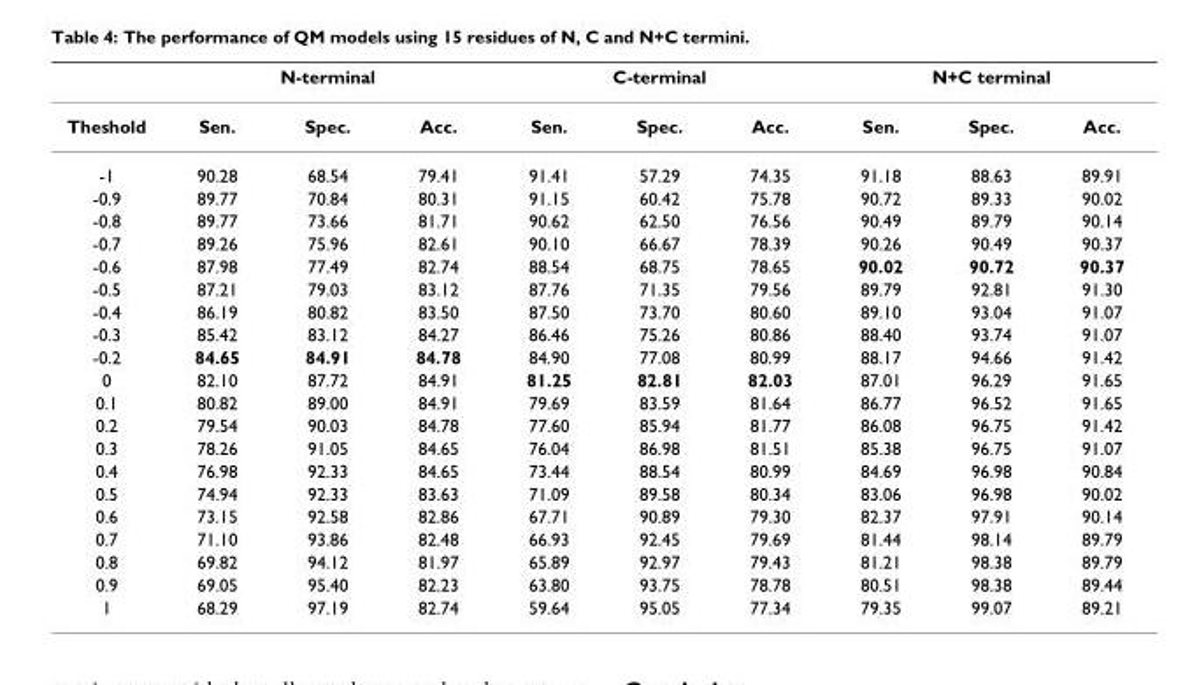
<table><thead><tr><td rowspan="2">Theshold</td><td colspan="3">N-terminal</td><td colspan="3">C-terminal</td><td colspan="3">N+C terminal</td></tr><tr><td>Sen.</td><td>Spec.</td><td>Acc.</td><td>Sen.</td><td>Spec.</td><td>Acc.</td><td>Sen.</td><td>Spec.</td><td>Acc.</td></tr></thead><tbody><tr><td>-1</td><td>90.28</td><td>68.54</td><td>79.41</td><td>91.41</td><td>57.29</td><td>74.35</td><td>91.18</td><td>88.63</td><td>89.91</td></tr><tr><td>-0.9</td><td>89.77</td><td>70.84</td><td>80.31</td><td>91.15</td><td>60.42</td><td>75.78</td><td>90.72</td><td>89.33</td><td>90.02</td></tr><tr><td>-0.8</td><td>89.77</td><td>73.66</td><td>81.71</td><td>90.62</td><td>62.50</td><td>76.56</td><td>90.49</td><td>89.79</td><td>90.14</td></tr><tr><td>-0.7</td><td>89.26</td><td>75.96</td><td>82.61</td><td>90.10</td><td>66.67</td><td>78.39</td><td>90.26</td><td>90.49</td><td>90.37</td></tr><tr><td>-0.6</td><td>87.98</td><td>77.49</td><td>82.74</td><td>88.54</td><td>68.75</td><td>78.65</td><td>90.02</td><td>90.72</td><td>90.37</td></tr><tr><td>-0.5</td><td>87.21</td><td>79.03</td><td>83.12</td><td>87.76</td><td>71.35</td><td>79.56</td><td>89.79</td><td>92.81</td><td>91.30</td></tr><tr><td>-0.4</td><td>86.19</td><td>80.82</td><td>83.50</td><td>87.50</td><td>73.70</td><td>80.60</td><td>89.10</td><td>93.04</td><td>91.07</td></tr><tr><td>-0.3</td><td>85.42</td><td>83.12</td><td>84.27</td><td>86.46</td><td>75.26</td><td>80.86</td><td>88.40</td><td>93.74</td><td>91.07</td></tr><tr><td>-0.2</td><td>84.65</td><td>84.91</td><td>84.78</td><td>84.90</td><td>77.08</td><td>80.99</td><td>88.17</td><td>94.66</td><td>91.42</td></tr><tr><td>0</td><td>82.10</td><td>87.72</td><td>84.91</td><td>81.25</td><td>82.81</td><td>82.03</td><td>87.01</td><td>96.29</td><td>91.65</td></tr><tr><td>0.1</td><td>80.82</td><td>89.00</td><td>84.91</td><td>79.69</td><td>83.59</td><td>81.64</td><td>86.77</td><td>96.52</td><td>91.65</td></tr><tr><td>0.2</td><td>79.54</td><td>90.03</td><td>84.78</td><td>77.60</td><td>85.94</td><td>81.77</td><td>86.08</td><td>96.75</td><td>91.42</td></tr><tr><td>0.3</td><td>78.26</td><td>91.05</td><td>84.65</td><td>76.04</td><td>86.98</td><td>81.51</td><td>85.38</td><td>96.75</td><td>91.07</td></tr><tr><td>0.4</td><td>76.98</td><td>92.33</td><td>84.65</td><td>73.44</td><td>88.54</td><td>80.99</td><td>84.69</td><td>96.98</td><td>90.84</td></tr><tr><td>0.5</td><td>74.94</td><td>92.33</td><td>83.63</td><td>71.09</td><td>89.58</td><td>80.34</td><td>83.06</td><td>96.98</td><td>90.02</td></tr><tr><td>0.6</td><td>73.15</td><td>92.58</td><td>82.86</td><td>67.71</td><td>90.89</td><td>79.30</td><td>82.37</td><td>97.91</td><td>90.14</td></tr><tr><td>0.7</td><td>71.10</td><td>93.86</td><td>82.48</td><td>66.93</td><td>92.45</td><td>79.69</td><td>81.44</td><td>98.14</td><td>89.79</td></tr><tr><td>0.8</td><td>69.82</td><td>94.12</td><td>81.97</td><td>65.89</td><td>92.97</td><td>79.43</td><td>81.21</td><td>98.38</td><td>89.79</td></tr><tr><td>0.9</td><td>69.05</td><td>95.40</td><td>82.23</td><td>63.80</td><td>93.75</td><td>78.78</td><td>80.51</td><td>98.38</td><td>89.44</td></tr><tr><td>1</td><td>68.29</td><td>97.19</td><td>82.74</td><td>59.64</td><td>95.05</td><td>77.34</td><td>79.35</td><td>99.07</td><td>89.21</td></tr></tbody></table>